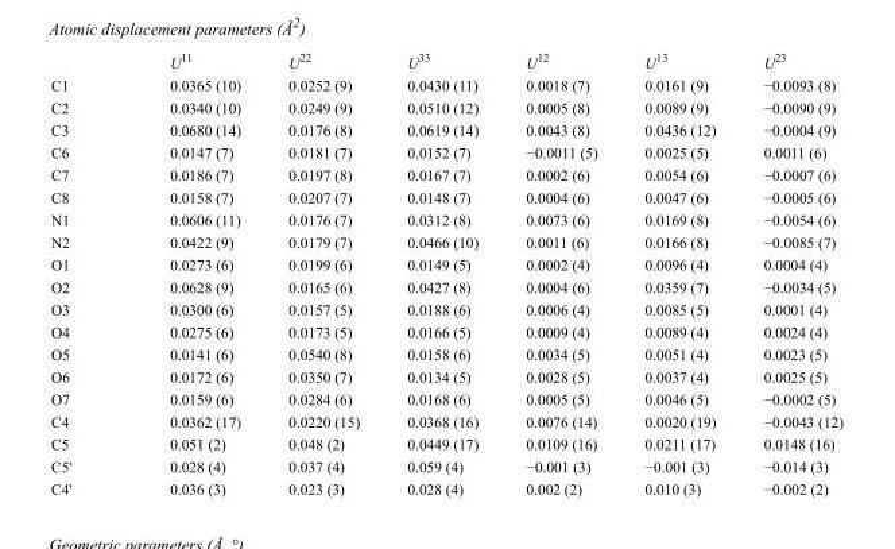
<table><thead><tr><td></td><td>U<sup>11</sup></td><td>U<sup>22</sup></td><td>U<sup>33</sup></td><td>U<sup>12</sup></td><td>U<sup>13</sup></td><td>U<sup>23</sup></td></tr></thead><tbody><tr><td>C1</td><td>0.0365 (10)</td><td>0.0252 (9)</td><td>0.0430 (11)</td><td>0.0018 (7)</td><td>0.0161 (9)</td><td>−0.0093 (8)</td></tr><tr><td>C2</td><td>0.0340 (10)</td><td>0.0249 (9)</td><td>0.0510 (12)</td><td>0.0005 (8)</td><td>0.0089 (9)</td><td>−0.0090 (9)</td></tr><tr><td>C3</td><td>0.0680 (14)</td><td>0.0176 (8)</td><td>0.0619 (14)</td><td>0.0043 (8)</td><td>0.0436 (12)</td><td>−0.0004 (9)</td></tr><tr><td>C6</td><td>0.0147 (7)</td><td>0.0181 (7)</td><td>0.0152 (7)</td><td>−0.0011 (5)</td><td>0.0025 (5)</td><td>0.0011 (6)</td></tr><tr><td>C7</td><td>0.0186 (7)</td><td>0.0197 (8)</td><td>0.0167 (7)</td><td>0.0002 (6)</td><td>0.0054 (6)</td><td>−0.0007 (6)</td></tr><tr><td>C8</td><td>0.0158 (7)</td><td>0.0207 (7)</td><td>0.0148 (7)</td><td>0.0004 (6)</td><td>0.0047 (6)</td><td>−0.0005 (6)</td></tr><tr><td>N1</td><td>0.0606 (11)</td><td>0.0176 (7)</td><td>0.0312 (8)</td><td>0.0073 (6)</td><td>0.0169 (8)</td><td>−0.0054 (6)</td></tr><tr><td>N2</td><td>0.0422 (9)</td><td>0.0179 (7)</td><td>0.0466 (10)</td><td>0.0011 (6)</td><td>0.0166 (8)</td><td>−0.0085 (7)</td></tr><tr><td>O1</td><td>0.0273 (6)</td><td>0.0199 (6)</td><td>0.0149 (5)</td><td>0.0002 (4)</td><td>0.0096 (4)</td><td>0.0004 (4)</td></tr><tr><td>O2</td><td>0.0628 (9)</td><td>0.0165 (6)</td><td>0.0427 (8)</td><td>0.0004 (6)</td><td>0.0359 (7)</td><td>−0.0034 (5)</td></tr><tr><td>O3</td><td>0.0300 (6)</td><td>0.0157 (5)</td><td>0.0188 (6)</td><td>0.0006 (4)</td><td>0.0085 (5)</td><td>0.0001 (4)</td></tr><tr><td>O4</td><td>0.0275 (6)</td><td>0.0173 (5)</td><td>0.0166 (5)</td><td>0.0009 (4)</td><td>0.0089 (4)</td><td>0.0024 (4)</td></tr><tr><td>O5</td><td>0.0141 (6)</td><td>0.0540 (8)</td><td>0.0158 (6)</td><td>0.0034 (5)</td><td>0.0051 (4)</td><td>0.0023 (5)</td></tr><tr><td>O6</td><td>0.0172 (6)</td><td>0.0350 (7)</td><td>0.0134 (5)</td><td>0.0028 (5)</td><td>0.0037 (4)</td><td>0.0025 (5)</td></tr><tr><td>O7</td><td>0.0159 (6)</td><td>0.0284 (6)</td><td>0.0168 (6)</td><td>0.0005 (5)</td><td>0.0046 (5)</td><td>−0.0002 (5)</td></tr><tr><td>C4</td><td>0.0362 (17)</td><td>0.0220 (15)</td><td>0.0368 (16)</td><td>0.0076 (14)</td><td>0.0020 (19)</td><td>−0.0043 (12)</td></tr><tr><td>C5</td><td>0.051 (2)</td><td>0.048 (2)</td><td>0.0449 (17)</td><td>0.0109 (16)</td><td>0.0211 (17)</td><td>0.0148 (16)</td></tr><tr><td>C5&#x27;</td><td>0.028 (4)</td><td>0.037 (4)</td><td>0.059 (4)</td><td>−0.001 (3)</td><td>−0.001 (3)</td><td>−0.014 (3)</td></tr><tr><td>C4&#x27;</td><td>0.036 (3)</td><td>0.023 (3)</td><td>0.028 (4)</td><td>0.002 (2)</td><td>0.010 (3)</td><td>−0.002 (2)</td></tr></tbody></table>